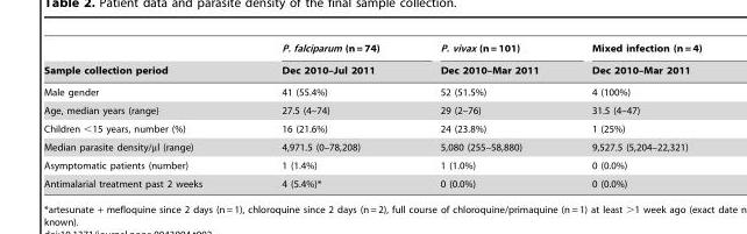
<table><thead><tr><td rowspan="2">Sample collection period</td><td rowspan="2">P. falciparum (n = 74) Dec 2010–Jul 2011</td><td rowspan="2">P. vivax (n = 101) Dec 2010–Mar 2011</td><td rowspan="2">Mixed infection (n = 4) Dec 2010–Mar 2011</td></tr><tr></tr></thead><tbody><tr><td>Male gender</td><td>41 (55.4%)</td><td>52 (51.5%)</td><td>4 (100%)</td></tr><tr><td>Age, median years (range)</td><td>27.5 (4–74)</td><td>29 (2–76)</td><td>31.5 (4–47)</td></tr><tr><td>Children &lt;15 years, number (%)</td><td>16 (21.6%)</td><td>24 (23.8%)</td><td>1 (25%)</td></tr><tr><td>Median parasite density/µl (range)</td><td>4,971.5 (0–78,208)</td><td>5,080 (255–58,880)</td><td>9,527.5 (5,204–22,321)</td></tr><tr><td>Asymptomatic patients (number)</td><td>1 (1.4%)</td><td>1 (1.0%)</td><td>0 (0.0%)</td></tr><tr><td>Antimalarial treatment past 2 weeks</td><td>4 (5.4%)*</td><td>0 (0.0%)</td><td>0 (0.0%)</td></tr></tbody></table>